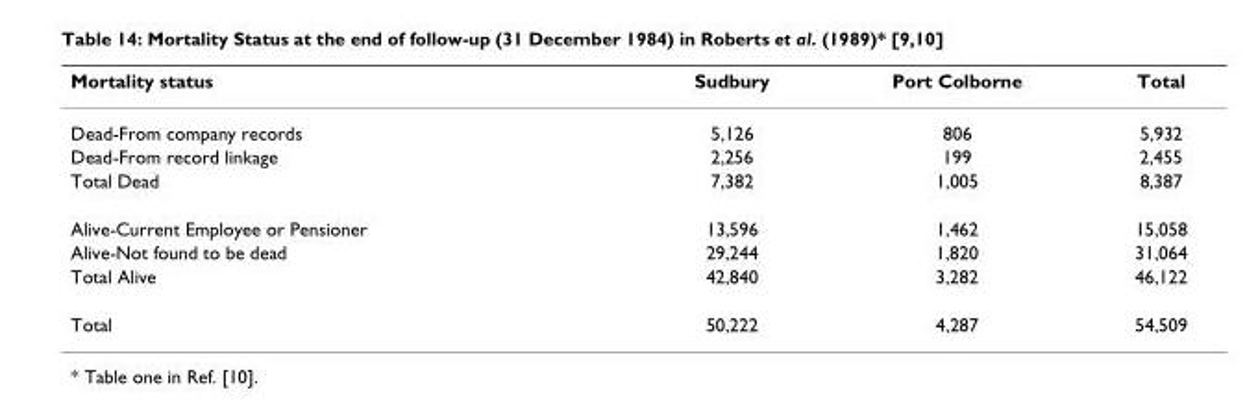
<table><thead><tr><td>Mortality status</td><td>Sudbury</td><td>Port Colborne</td><td>Total</td></tr></thead><tbody><tr><td>Dead-From company records</td><td>5,126</td><td>806</td><td>5,932</td></tr><tr><td>Dead-From record linkage</td><td>2,256</td><td>199</td><td>2,455</td></tr><tr><td>Total Dead</td><td>7,382</td><td>1,005</td><td>8,387</td></tr><tr><td>Alive-Current Employee or Pensioner</td><td>13,596</td><td>1,462</td><td>15,058</td></tr><tr><td>Alive-Not found to be dead</td><td>29,244</td><td>1,820</td><td>31,064</td></tr><tr><td>Total Alive</td><td>42,840</td><td>3,282</td><td>46,122</td></tr><tr><td>Total</td><td>50,222</td><td>4,287</td><td>54,509</td></tr></tbody></table>